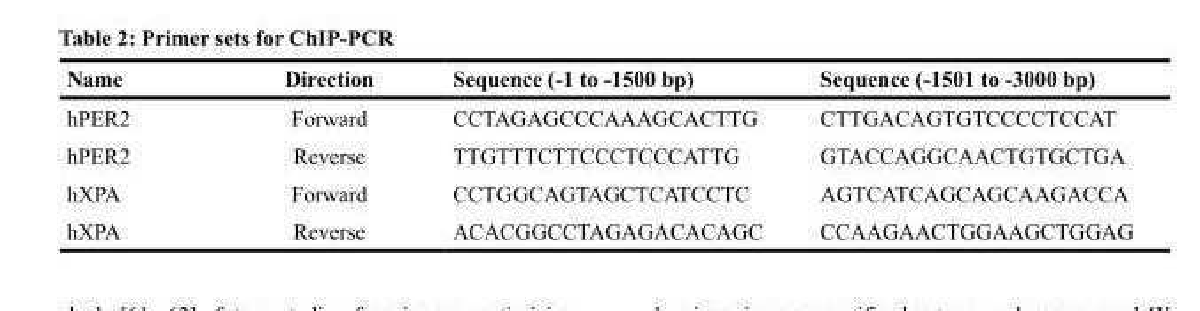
<table><thead><tr><td>Name</td><td>Direction</td><td>Sequence (-1 to -1500 bp)</td><td>Sequence (-1501 to -3000 bp)</td></tr></thead><tbody><tr><td>hPER2</td><td>Forward</td><td>CCTAGAGCCCAAAGCACTTG</td><td>CTTGACAGTGTCCCCTCCAT</td></tr><tr><td>hPER2</td><td>Reverse</td><td>TTGTTTCTTCCCTCCCATTG</td><td>GTACCAGGCAACTGTGCTGA</td></tr><tr><td>hXPA</td><td>Forward</td><td>CCTGGCAGTAGCTCATCCTC</td><td>AGTCATCAGCAGCAAGACCA</td></tr><tr><td>hXPA</td><td>Reverse</td><td>ACACGGCCTAGAGACACAGC</td><td>CCAAGAACTGGAAGCTGGAG</td></tr></tbody></table>